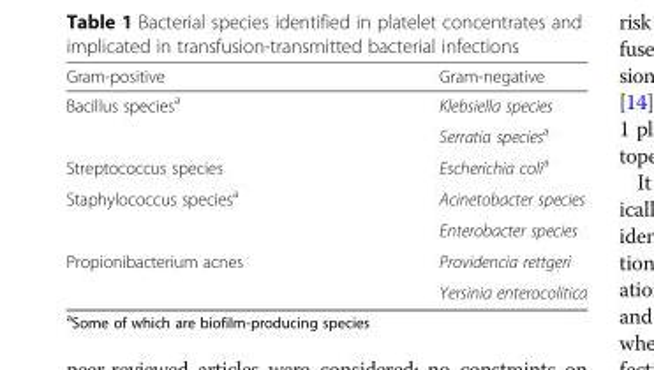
<table><thead><tr><td>Gram-positive</td><td>Gram-negative</td></tr></thead><tbody><tr><td rowspan="2">Bacillus species<sup>a</sup></td><td>Klebsiella species</td></tr><tr><td>Serratia species<sup>a</sup></td></tr><tr><td>Streptococcus species</td><td>Escherichia coli<sup>a</sup></td></tr><tr><td rowspan="2">Staphylococcus species<sup>a</sup></td><td>Acinetobacter species</td></tr><tr><td>Enterobacter species</td></tr><tr><td rowspan="2">Propionibacterium acnes</td><td>Providencia rettgeri</td></tr><tr><td>Yersinia enterocolitica</td></tr></tbody></table>